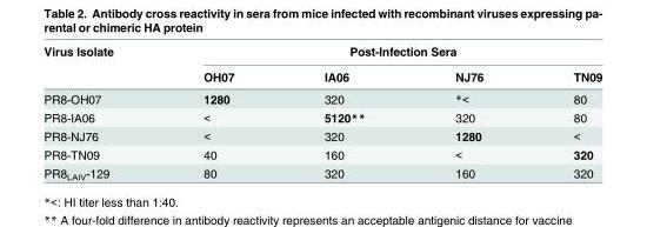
<table><thead><tr><td rowspan="2">Virus Isolate</td><td colspan="4">Post-Infection Sera</td></tr><tr><td>OH07</td><td>IA06</td><td>NJ76</td><td>TN09</td></tr></thead><tbody><tr><td>PR8-OH07</td><td>1280</td><td>320</td><td>*&lt;</td><td>80</td></tr><tr><td>PR8-IA06</td><td>&lt;</td><td>5120**</td><td>320</td><td>80</td></tr><tr><td>PR8-NJ76</td><td>&lt;</td><td>320</td><td>1280</td><td>&lt;</td></tr><tr><td>PR8-TN09</td><td>40</td><td>160</td><td>&lt;</td><td>320</td></tr><tr><td>PR8<sub>LAIV</sub>-129</td><td>80</td><td>320</td><td>160</td><td>320</td></tr></tbody></table>